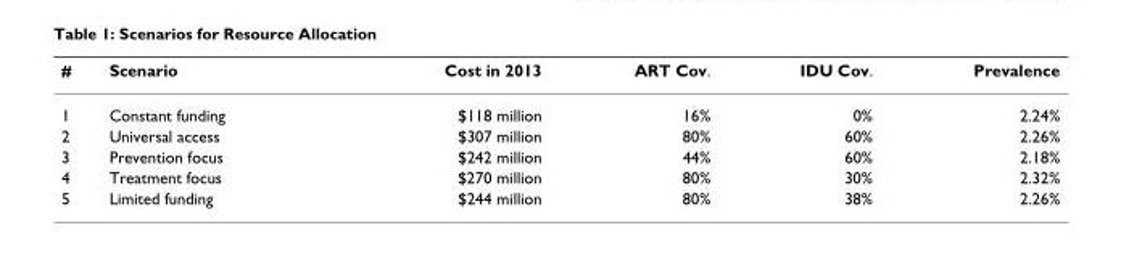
<table><thead><tr><td>#</td><td>Scenario</td><td>Cost in 2013</td><td>ART Cov.</td><td>IDU Cov.</td><td>Prevalence</td></tr></thead><tbody><tr><td>1</td><td>Constant funding</td><td>$118 million</td><td>16%</td><td>0%</td><td>2.24%</td></tr><tr><td>2</td><td>Universal access</td><td>$307 million</td><td>80%</td><td>60%</td><td>2.26%</td></tr><tr><td>3</td><td>Prevention focus</td><td>$242 million</td><td>44%</td><td>60%</td><td>2.18%</td></tr><tr><td>4</td><td>Treatment focus</td><td>$270 million</td><td>80%</td><td>30%</td><td>2.32%</td></tr><tr><td>5</td><td>Limited funding</td><td>$244 million</td><td>80%</td><td>38%</td><td>2.26%</td></tr></tbody></table>